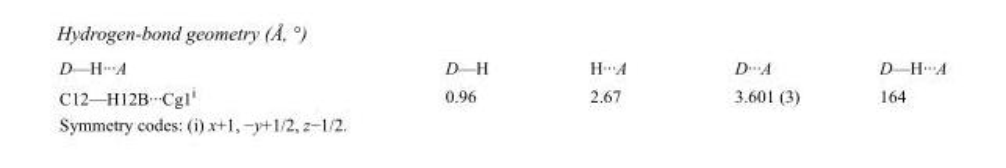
<table><tbody><tr><td>D—H···A</td><td>D—H</td><td>H···A</td><td>D···A</td><td>D—H···A</td></tr><tr><td>C12—H12B···Cg1<sup>i</sup></td><td>0.96</td><td>2.67</td><td>3.601 (3)</td><td>164</td></tr></tbody></table>